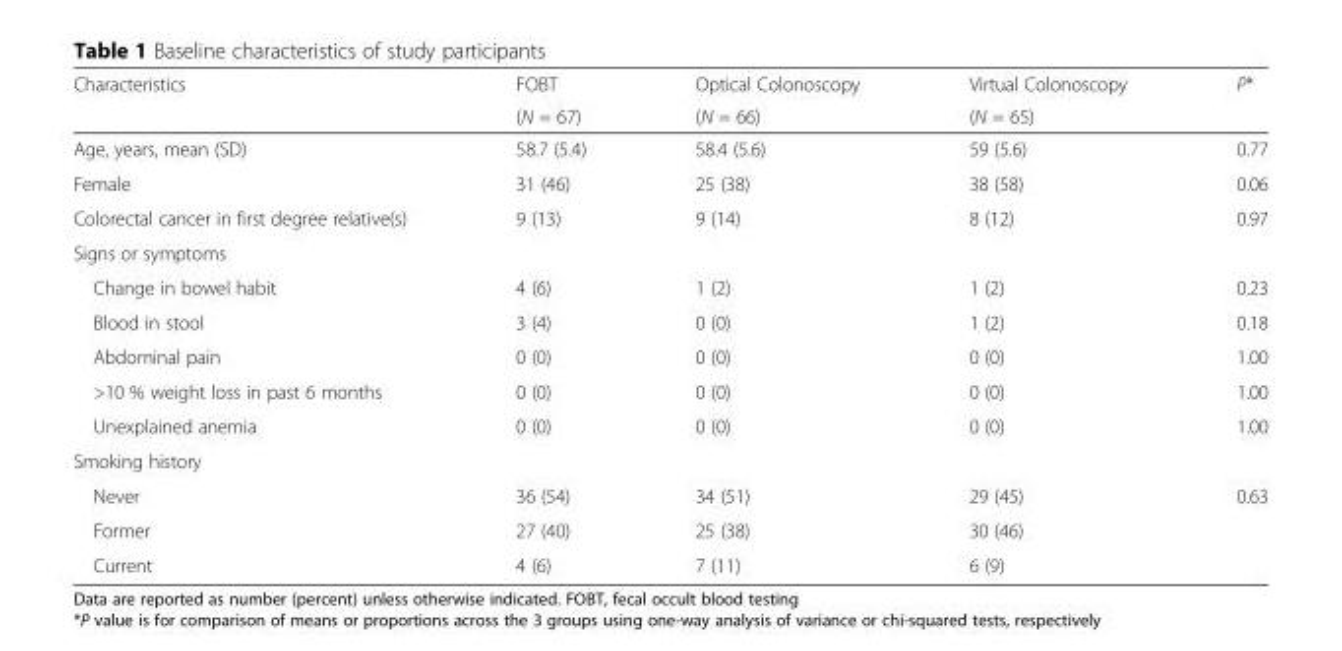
<table><thead><tr><td rowspan="2">Characteristics</td><td rowspan="2">FOBT (N = 67)</td><td rowspan="2">Optical Colonoscopy (N = 66)</td><td rowspan="2">Virtual Colonoscopy (N = 65)</td><td rowspan="2">P*</td></tr><tr></tr></thead><tbody><tr><td>Age, years, mean (SD)</td><td>58.7 (5.4)</td><td>58.4 (5.6)</td><td>59 (5.6)</td><td>0.77</td></tr><tr><td>Female</td><td>31 (46)</td><td>25 (38)</td><td>38 (58)</td><td>0.06</td></tr><tr><td>Colorectal cancer in first degree relative(s)</td><td>9 (13)</td><td>9 (14)</td><td>8 (12)</td><td>0.97</td></tr><tr><td colspan="5">Signs or symptoms</td></tr><tr><td>Change in bowel habit</td><td>4 (6)</td><td>1 (2)</td><td>1 (2)</td><td>0.23</td></tr><tr><td>Blood in stool</td><td>3 (4)</td><td>0 (0)</td><td>1 (2)</td><td>0.18</td></tr><tr><td>Abdominal pain</td><td>0 (0)</td><td>0 (0)</td><td>0 (0)</td><td>1.00</td></tr><tr><td>&gt;10 % weight loss in past 6 months</td><td>0 (0)</td><td>0 (0)</td><td>0 (0)</td><td>1.00</td></tr><tr><td>Unexplained anemia</td><td>0 (0)</td><td>0 (0)</td><td>0 (0)</td><td>1.00</td></tr><tr><td colspan="5">Smoking history</td></tr><tr><td>Never</td><td>36 (54)</td><td>34 (51)</td><td>29 (45)</td><td>0.63</td></tr><tr><td>Former</td><td>27 (40)</td><td>25 (38)</td><td>30 (46)</td><td></td></tr><tr><td>Current</td><td>4 (6)</td><td>7 (11)</td><td>6 (9)</td><td></td></tr></tbody></table>